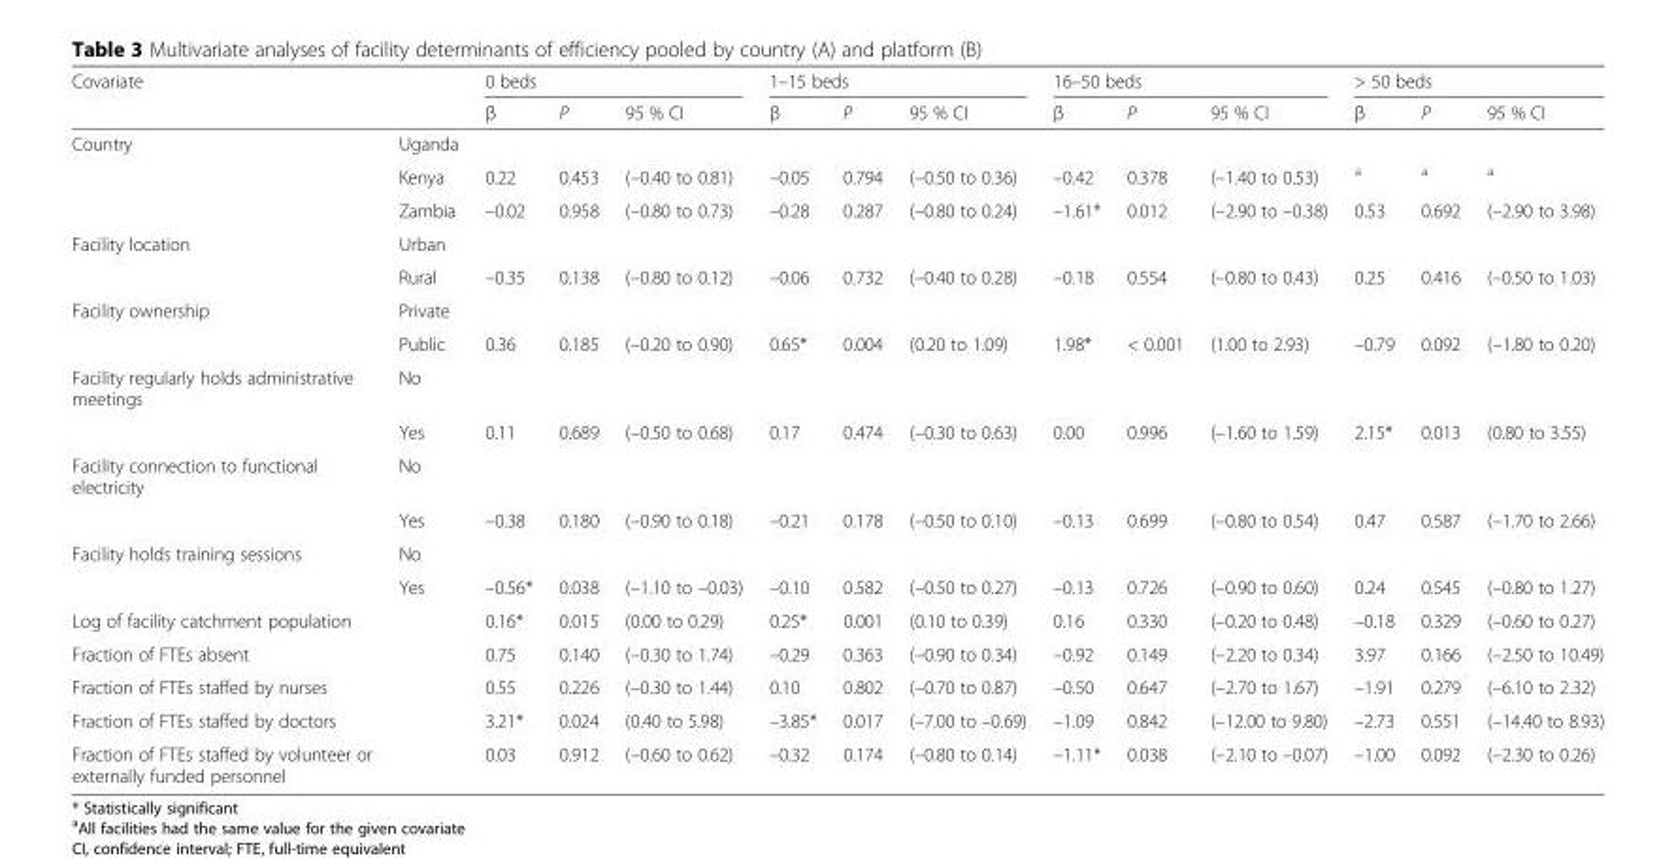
<table><thead><tr><td rowspan="2" colspan="2">Covariate</td><td colspan="3">0 beds</td><td colspan="3">1–15 beds</td><td colspan="3">16–50 beds</td><td colspan="3">&gt; 50 beds</td></tr><tr><td rowspan="2">β</td><td rowspan="2">P</td><td rowspan="2">95 % CI</td><td rowspan="2">β</td><td rowspan="2">P</td><td rowspan="2">95 % CI</td><td rowspan="2">β</td><td rowspan="2">P</td><td rowspan="2">95 % CI</td><td rowspan="2">β</td><td rowspan="2">P</td><td rowspan="2">95 % CI</td></tr><tr><td>Country</td><td>Uganda</td></tr></thead><tbody><tr><td></td><td>Kenya</td><td>0.22</td><td>0.453</td><td>(–0.40 to 0.81)</td><td>–0.05</td><td>0.794</td><td>(–0.50 to 0.36)</td><td>–0.42</td><td>0.378</td><td>(–1.40 to 0.53)</td><td><sup>a</sup></td><td><sup>a</sup></td><td><sup>a</sup></td></tr><tr><td></td><td>Zambia</td><td>–0.02</td><td>0.958</td><td>(–0.80 to 0.73)</td><td>–0.28</td><td>0.287</td><td>(–0.80 to 0.24)</td><td>–1.61*</td><td>0.012</td><td>(–2.90 to –0.38)</td><td>0.53</td><td>0.692</td><td>(–2.90 to 3.98)</td></tr><tr><td rowspan="2">Facility location</td><td>Urban</td><td></td><td></td><td></td><td></td><td></td><td></td><td></td><td></td><td></td><td></td><td></td><td></td></tr><tr><td>Rural</td><td>–0.35</td><td>0.138</td><td>(–0.80 to 0.12)</td><td>–0.06</td><td>0.732</td><td>(–0.40 to 0.28)</td><td>–0.18</td><td>0.554</td><td>(–0.80 to 0.43)</td><td>0.25</td><td>0.416</td><td>(–0.50 to 1.03)</td></tr><tr><td rowspan="2">Facility ownership</td><td>Private</td><td></td><td></td><td></td><td></td><td></td><td></td><td></td><td></td><td></td><td></td><td></td><td></td></tr><tr><td>Public</td><td>0.36</td><td>0.185</td><td>(–0.20 to 0.90)</td><td>0.65*</td><td>0.004</td><td>(0.20 to 1.09)</td><td>1.98*</td><td>&lt; 0.001</td><td>(1.00 to 2.93)</td><td>–0.79</td><td>0.092</td><td>(–1.80 to 0.20)</td></tr><tr><td rowspan="2">Facility regularly holds administrative meetings</td><td>No</td><td></td><td></td><td></td><td></td><td></td><td></td><td></td><td></td><td></td><td></td><td></td><td></td></tr><tr><td>Yes</td><td>0.11</td><td>0.689</td><td>(–0.50 to 0.68)</td><td>0.17</td><td>0.474</td><td>(–0.30 to 0.63)</td><td>0.00</td><td>0.996</td><td>(–1.60 to 1.59)</td><td>2.15*</td><td>0.013</td><td>(0.80 to 3.55)</td></tr><tr><td rowspan="2">Facility connection to functional electricity</td><td>No</td><td></td><td></td><td></td><td></td><td></td><td></td><td></td><td></td><td></td><td></td><td></td><td></td></tr><tr><td>Yes</td><td>–0.38</td><td>0.180</td><td>(–0.90 to 0.18)</td><td>–0.21</td><td>0.178</td><td>(–0.50 to 0.10)</td><td>–0.13</td><td>0.699</td><td>(–0.80 to 0.54)</td><td>0.47</td><td>0.587</td><td>(–1.70 to 2.66)</td></tr><tr><td rowspan="2">Facility holds training sessions</td><td>No</td><td></td><td></td><td></td><td></td><td></td><td></td><td></td><td></td><td></td><td></td><td></td><td></td></tr><tr><td>Yes</td><td>–0.56*</td><td>0.038</td><td>(–1.10 to –0.03)</td><td>–0.10</td><td>0.582</td><td>(–0.50 to 0.27)</td><td>–0.13</td><td>0.726</td><td>(–0.90 to 0.60)</td><td>0.24</td><td>0.545</td><td>(–0.80 to 1.27)</td></tr><tr><td>Log of facility catchment population</td><td></td><td>0.16*</td><td>0.015</td><td>(0.00 to 0.29)</td><td>0.25*</td><td>0.001</td><td>(0.10 to 0.39)</td><td>0.16</td><td>0.330</td><td>(–0.20 to 0.48)</td><td>–0.18</td><td>0.329</td><td>(–0.60 to 0.27)</td></tr><tr><td>Fraction of FTEs absent</td><td></td><td>0.75</td><td>0.140</td><td>(–0.30 to 1.74)</td><td>–0.29</td><td>0.363</td><td>(–0.90 to 0.34)</td><td>–0.92</td><td>0.149</td><td>(–2.20 to 0.34)</td><td>3.97</td><td>0.166</td><td>(–2.50 to 10.49)</td></tr><tr><td>Fraction of FTEs staffed by nurses</td><td></td><td>0.55</td><td>0.226</td><td>(–0.30 to 1.44)</td><td>0.10</td><td>0.802</td><td>(–0.70 to 0.87)</td><td>–0.50</td><td>0.647</td><td>(–2.70 to 1.67)</td><td>–1.91</td><td>0.279</td><td>(–6.10 to 2.32)</td></tr><tr><td>Fraction of FTEs staffed by doctors</td><td></td><td>3.21*</td><td>0.024</td><td>(0.40 to 5.98)</td><td>–3.85*</td><td>0.017</td><td>(–7.00 to –0.69)</td><td>–1.09</td><td>0.842</td><td>(–12.00 to 9.80)</td><td>–2.73</td><td>0.551</td><td>(–14.40 to 8.93)</td></tr><tr><td>Fraction of FTEs staffed by volunteer or externally funded personnel</td><td></td><td>0.03</td><td>0.912</td><td>(–0.60 to 0.62)</td><td>–0.32</td><td>0.174</td><td>(–0.80 to 0.14)</td><td>–1.11*</td><td>0.038</td><td>(–2.10 to –0.07)</td><td>–1.00</td><td>0.092</td><td>(–2.30 to 0.26)</td></tr></tbody></table>